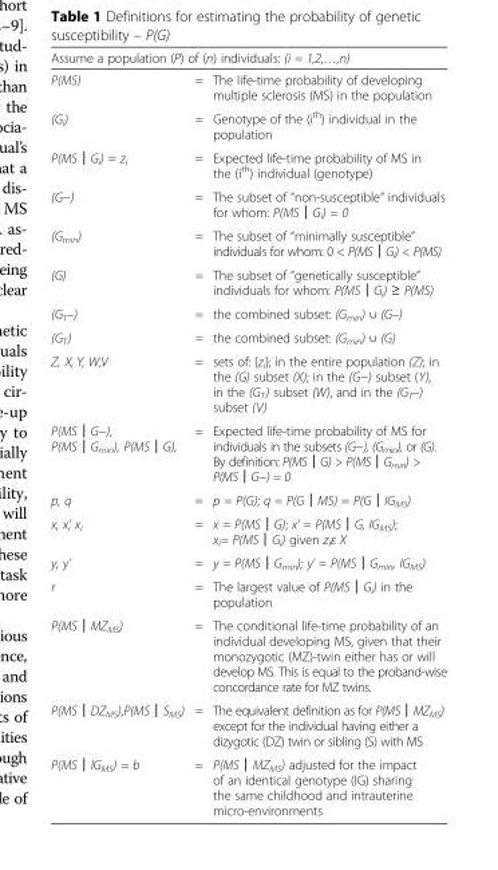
<table><thead><tr><td colspan="3">Assume a population (P) of (n) individuals: (i = 1,2,…,n)</td></tr><tr><td>P(MS)</td><td>=</td><td>The life-time probability of developing multiple sclerosis (MS) in the population</td></tr></thead><tbody><tr><td>(G<sub>i</sub>)</td><td>=</td><td>Genotype of the (i<sup>th</sup>) individual in the population</td></tr><tr><td>P(MS│G<sub>i</sub>) = z<sub>i</sub></td><td>=</td><td>Expected life-time probability of MS in the (i<sup>th</sup>) individual (genotype)</td></tr><tr><td>(G−)</td><td>=</td><td>The subset of “non-susceptible” individuals for whom: P(MS│G<sub>i</sub>) = 0</td></tr><tr><td>(G<sub>min</sub>)</td><td>=</td><td>The subset of “minimally susceptible” individuals for whom: 0 &lt; P(MS│G<sub>i</sub>) &lt; P(MS)</td></tr><tr><td>(G)</td><td>=</td><td>The subset of “genetically susceptible” individuals for whom: P(MS│G<sub>i</sub>) ≥ P(MS)</td></tr><tr><td>(G<sub>T</sub>–)</td><td>=</td><td>the combined subset: (G<sub>min</sub>) ∪ (G–)</td></tr><tr><td>(G<sub>T</sub>)</td><td>=</td><td>the combined subset: (G<sub>min</sub>) ∪ (G)</td></tr><tr><td>Z, X, Y, W,V</td><td>=</td><td>sets of: {z<sub>i</sub>}; in the entire population (Z); in the (G) subset (X); in the (G−) subset (Y), in the (G<sub>T</sub>) subset (W), and in the (G<sub>T</sub>–) subset (V)</td></tr><tr><td>P(MS│G−), P(MS│G<sub>min</sub>), P(MS│G),</td><td>=</td><td>Expected life-time probability of MS for individuals in the subsets (G−), (G<sub>min</sub>), or (G). By definition: P(MS│G) &gt; P(MS│G<sub>min</sub>) &gt; P(MS│G−) = 0</td></tr><tr><td>p, q</td><td>=</td><td>p = P(G); q = P(G│MS) = P(G│IG<sub>MS</sub>)</td></tr><tr><td>x, x’, x<sub>i</sub></td><td>=</td><td>x = P(MS│G); x’ = P(MS│G, IG<sub>MS</sub>); x<sub>i</sub>= P(MS│G<sub>i</sub>) given z<sub>i</sub>ε X</td></tr><tr><td>y, y’</td><td>=</td><td>y = P(MS│G<sub>min</sub>); y’ = P(MS│G<sub>min</sub>, IG<sub>MS</sub>)</td></tr><tr><td>r</td><td>=</td><td>The largest value of P(MS│G<sub>i</sub>) in the population</td></tr><tr><td>P(MS│MZ<sub>MS</sub>)</td><td>=</td><td>The conditional life-time probability of an individual developing MS, given that their monozygotic (MZ)-twin either has or will develop MS. This is equal to the proband-wise concordance rate for MZ twins.</td></tr><tr><td>P(MS│DZ<sub>MS</sub>),P(MS│S<sub>MS</sub>)</td><td>=</td><td>The equivalent definition as for P(MS│MZ<sub>MS</sub>) except for the individual having either a dizygotic (DZ) twin or sibling (S) with MS</td></tr><tr><td>P(MS│IG<sub>MS</sub>) = b</td><td>=</td><td>P(MS│MZ<sub>MS</sub>) adjusted for the impact of an identical genotype (IG) sharing the same childhood and intrauterine micro-environments</td></tr></tbody></table>